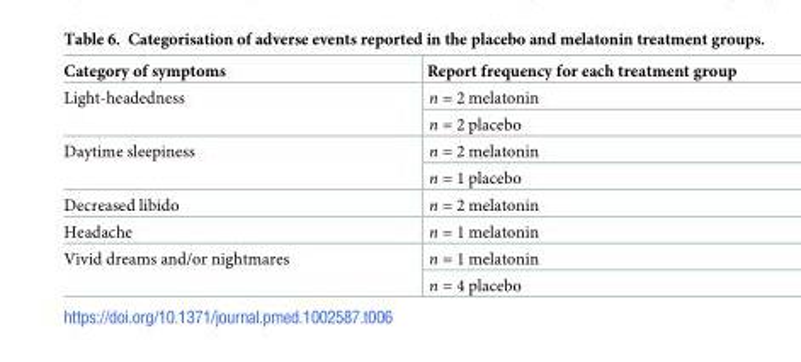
<table><thead><tr><td>Category of symptoms</td><td>Report frequency for each treatment group</td></tr></thead><tbody><tr><td rowspan="2">Light-headedness</td><td>n = 2 melatonin</td></tr><tr><td>n = 2 placebo</td></tr><tr><td rowspan="2">Daytime sleepiness</td><td>n = 2 melatonin</td></tr><tr><td>n = 1 placebo</td></tr><tr><td>Decreased libido</td><td>n = 2 melatonin</td></tr><tr><td>Headache</td><td>n = 1 melatonin</td></tr><tr><td rowspan="2">Vivid dreams and/or nightmares</td><td>n = 1 melatonin</td></tr><tr><td>n = 4 placebo</td></tr></tbody></table>